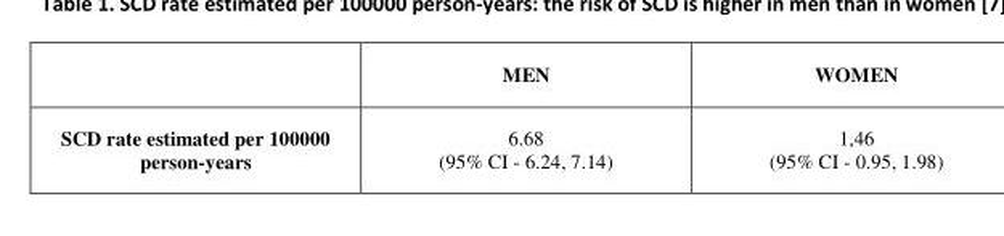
<table><thead><tr><td></td><td>MEN</td><td>WOMEN</td></tr></thead><tbody><tr><td>SCD rate estimated per 100000 person-years</td><td>6.68 (95% CI - 6.24, 7.14)</td><td>1,46 (95% CI - 0.95, 1.98)</td></tr></tbody></table>